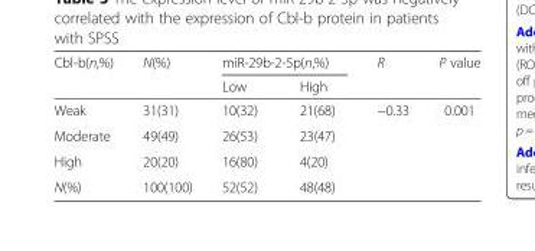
<table><thead><tr><td rowspan="2">Cbl-b(n,%)</td><td rowspan="2">N(%)</td><td colspan="2">miR-29b-2-5p(n,%)</td><td rowspan="2">R</td><td rowspan="2">P value</td></tr><tr><td>Low</td><td>High</td></tr></thead><tbody><tr><td>Weak</td><td>31(31)</td><td>10(32)</td><td>21(68)</td><td rowspan="4">−0.33</td><td rowspan="4">0.001</td></tr><tr><td>Moderate</td><td>49(49)</td><td>26(53)</td><td>23(47)</td></tr><tr><td>High</td><td>20(20)</td><td>16(80)</td><td>4(20)</td></tr><tr><td>N(%)</td><td>100(100)</td><td>52(52)</td><td>48(48)</td></tr></tbody></table>